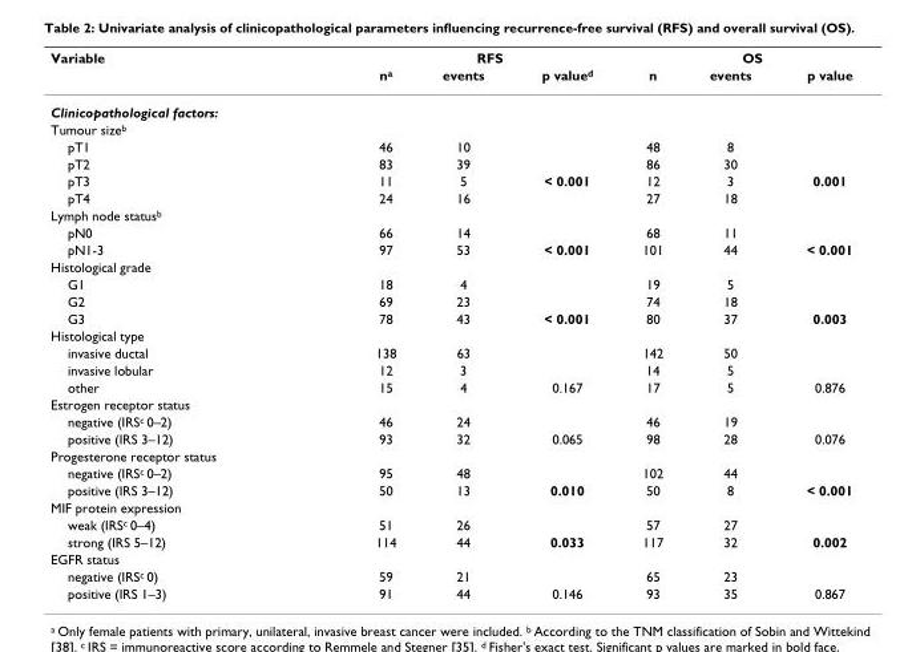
<table><thead><tr><td rowspan="2">Variable</td><td colspan="3">RFS</td><td colspan="3">OS</td></tr><tr><td>n<sup>a</sup></td><td>events</td><td>p value<sup>d</sup></td><td>n</td><td>events</td><td>p value</td></tr></thead><tbody><tr><td colspan="7">Clinicopathological factors:</td></tr><tr><td colspan="7">Tumour size<sup>b</sup></td></tr><tr><td>pT1</td><td>46</td><td>10</td><td></td><td>48</td><td>8</td><td></td></tr><tr><td>pT2</td><td>83</td><td>39</td><td></td><td>86</td><td>30</td><td></td></tr><tr><td>pT3</td><td>11</td><td>5</td><td>&lt; 0.001</td><td>12</td><td>3</td><td>0.001</td></tr><tr><td>pT4</td><td>24</td><td>16</td><td></td><td>27</td><td>18</td><td></td></tr><tr><td colspan="7">Lymph node status<sup>b</sup></td></tr><tr><td>pN0</td><td>66</td><td>14</td><td></td><td>68</td><td>11</td><td></td></tr><tr><td>pN1-3</td><td>97</td><td>53</td><td>&lt; 0.001</td><td>101</td><td>44</td><td>&lt; 0.001</td></tr><tr><td colspan="7">Histological grade</td></tr><tr><td>G1</td><td>18</td><td>4</td><td></td><td>19</td><td>5</td><td></td></tr><tr><td>G2</td><td>69</td><td>23</td><td></td><td>74</td><td>18</td><td></td></tr><tr><td>G3</td><td>78</td><td>43</td><td>&lt; 0.001</td><td>80</td><td>37</td><td>0.003</td></tr><tr><td colspan="7">Histological type</td></tr><tr><td>invasive ductal</td><td>138</td><td>63</td><td></td><td>142</td><td>50</td><td></td></tr><tr><td>invasive lobular</td><td>12</td><td>3</td><td></td><td>14</td><td>5</td><td></td></tr><tr><td>other</td><td>15</td><td>4</td><td>0.167</td><td>17</td><td>5</td><td>0.876</td></tr><tr><td colspan="7">Estrogen receptor status</td></tr><tr><td>negative (IRS<sup>c</sup> 0–2)</td><td>46</td><td>24</td><td></td><td>46</td><td>19</td><td></td></tr><tr><td>positive (IRS 3–12)</td><td>93</td><td>32</td><td>0.065</td><td>98</td><td>28</td><td>0.076</td></tr><tr><td colspan="7">Progesterone receptor status</td></tr><tr><td>negative (IRS<sup>c</sup> 0–2)</td><td>95</td><td>48</td><td></td><td>102</td><td>44</td><td></td></tr><tr><td>positive (IRS 3–12)</td><td>50</td><td>13</td><td>0.010</td><td>50</td><td>8</td><td>&lt; 0.001</td></tr><tr><td colspan="7">MIF protein expression</td></tr><tr><td>weak (IRS<sup>c</sup> 0–4)</td><td>51</td><td>26</td><td></td><td>57</td><td>27</td><td></td></tr><tr><td>strong (IRS 5–12)</td><td>114</td><td>44</td><td>0.033</td><td>117</td><td>32</td><td>0.002</td></tr><tr><td colspan="7">EGFR status</td></tr><tr><td>negative (IRS<sup>c</sup> 0)</td><td>59</td><td>21</td><td></td><td>65</td><td>23</td><td></td></tr><tr><td>positive (IRS 1–3)</td><td>91</td><td>44</td><td>0.146</td><td>93</td><td>35</td><td>0.867</td></tr></tbody></table>